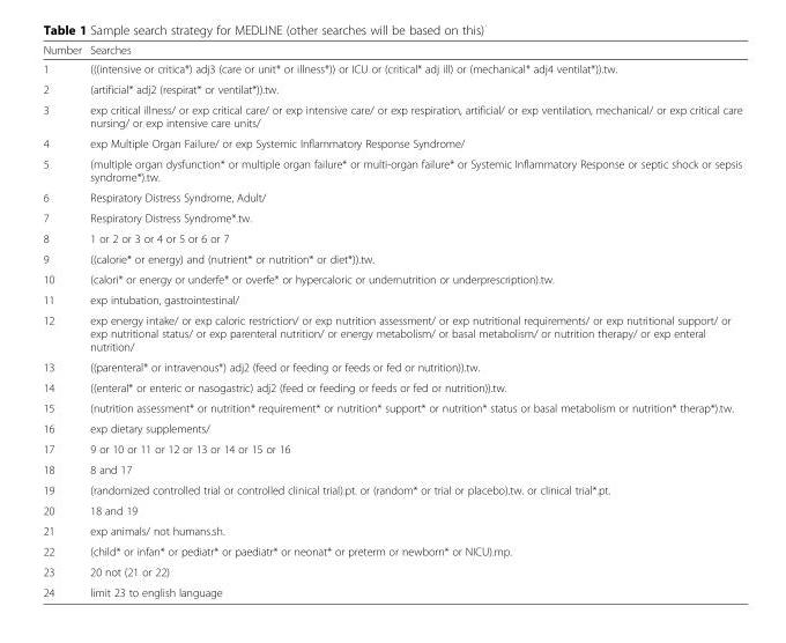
<table><thead><tr><td>Number</td><td>Searches</td></tr></thead><tbody><tr><td>1</td><td>(((intensive or critica*) adj3 (care or unit* or illness*)) or ICU or (critical* adj ill) or (mechanical* adj4 ventilat*)).tw.</td></tr><tr><td>2</td><td>(artificial* adj2 (respirat* or ventilat*)).tw.</td></tr><tr><td>3</td><td>exp critical illness/ or exp critical care/ or exp intensive care/ or exp respiration, artificial/ or exp ventilation, mechanical/ or exp critical care nursing/ or exp intensive care units/</td></tr><tr><td>4</td><td>exp Multiple Organ Failure/ or exp Systemic Inflammatory Response Syndrome/</td></tr><tr><td>5</td><td>(multiple organ dysfunction* or multiple organ failure* or multi-organ failure* or Systemic Inflammatory Response or septic shock or sepsis syndrome*).tw.</td></tr><tr><td>6</td><td>Respiratory Distress Syndrome, Adult/</td></tr><tr><td>7</td><td>Respiratory Distress Syndrome*.tw.</td></tr><tr><td>8</td><td>1 or 2 or 3 or 4 or 5 or 6 or 7</td></tr><tr><td>9</td><td>((calorie* or energy) and (nutrient* or nutrition* or diet*)).tw.</td></tr><tr><td>10</td><td>(calori* or energy or underfe* or overfe* or hypercaloric or undernutrition or underprescription).tw.</td></tr><tr><td>11</td><td>exp intubation, gastrointestinal/</td></tr><tr><td>12</td><td>exp energy intake/ or exp caloric restriction/ or exp nutrition assessment/ or exp nutritional requirements/ or exp nutritional support/ or exp nutritional status/ or exp parenteral nutrition/ or energy metabolism/ or basal metabolism/ or nutrition therapy/ or exp enteral nutrition/</td></tr><tr><td>13</td><td>((parenteral* or intravenous*) adj2 (feed or feeding or feeds or fed or nutrition)).tw.</td></tr><tr><td>14</td><td>((enteral* or enteric or nasogastric) adj2 (feed or feeding or feeds or fed or nutrition)).tw.</td></tr><tr><td>15</td><td>(nutrition assessment* or nutrition* requirement* or nutrition* support* or nutrition* status or basal metabolism or nutrition* therap*).tw.</td></tr><tr><td>16</td><td>exp dietary supplements/</td></tr><tr><td>17</td><td>9 or 10 or 11 or 12 or 13 or 14 or 15 or 16</td></tr><tr><td>18</td><td>8 and 17</td></tr><tr><td>19</td><td>(randomized controlled trial or controlled clinical trial).pt. or (random* or trial or placebo).tw. or clinical trial*.pt.</td></tr><tr><td>20</td><td>18 and 19</td></tr><tr><td>21</td><td>exp animals/ not humans.sh.</td></tr><tr><td>22</td><td>(child* or infan* or pediatr* or paediatr* or neonat* or preterm or newborn* or NICU).mp.</td></tr><tr><td>23</td><td>20 not (21 or 22)</td></tr><tr><td>24</td><td>limit 23 to english language</td></tr></tbody></table>